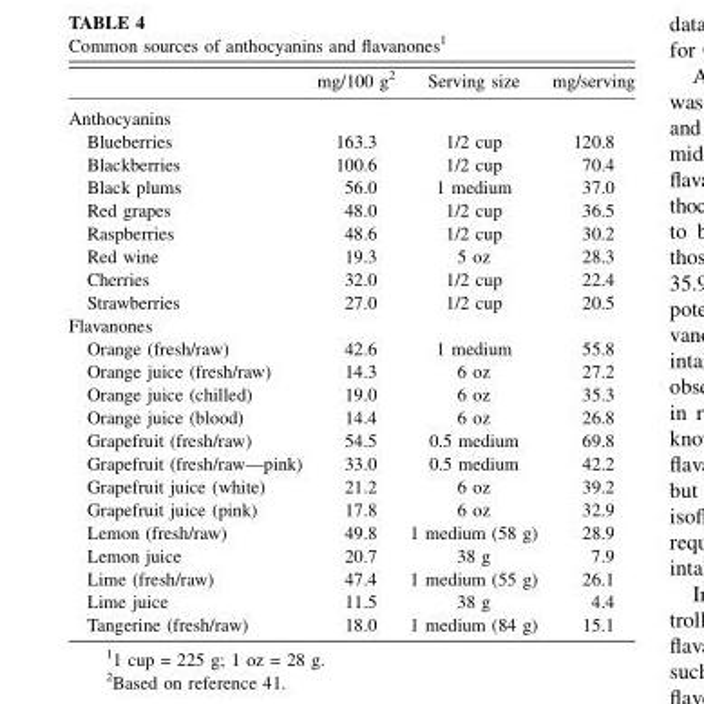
<table><thead><tr><td></td><td>mg/100 g<sup>2</sup></td><td>Serving size</td><td>mg/serving</td></tr></thead><tbody><tr><td colspan="4">Anthocyanins</td></tr><tr><td>Blueberries</td><td>163.3</td><td>1/2 cup</td><td>120.8</td></tr><tr><td>Blackberries</td><td>100.6</td><td>1/2 cup</td><td>70.4</td></tr><tr><td>Black plums</td><td>56.0</td><td>1 medium</td><td>37.0</td></tr><tr><td>Red grapes</td><td>48.0</td><td>1/2 cup</td><td>36.5</td></tr><tr><td>Raspberries</td><td>48.6</td><td>1/2 cup</td><td>30.2</td></tr><tr><td>Red wine</td><td>19.3</td><td>5 oz</td><td>28.3</td></tr><tr><td>Cherries</td><td>32.0</td><td>1/2 cup</td><td>22.4</td></tr><tr><td>Strawberries</td><td>27.0</td><td>1/2 cup</td><td>20.5</td></tr><tr><td colspan="4">Flavanones</td></tr><tr><td>Orange (fresh/raw)</td><td>42.6</td><td>1 medium</td><td>55.8</td></tr><tr><td>Orange juice (fresh/raw)</td><td>14.3</td><td>6 oz</td><td>27.2</td></tr><tr><td>Orange juice (chilled)</td><td>19.0</td><td>6 oz</td><td>35.3</td></tr><tr><td>Orange juice (blood)</td><td>14.4</td><td>6 oz</td><td>26.8</td></tr><tr><td>Grapefruit (fresh/raw)</td><td>54.5</td><td>0.5 medium</td><td>69.8</td></tr><tr><td>Grapefruit (fresh/raw—pink)</td><td>33.0</td><td>0.5 medium</td><td>42.2</td></tr><tr><td>Grapefruit juice (white)</td><td>21.2</td><td>6 oz</td><td>39.2</td></tr><tr><td>Grapefruit juice (pink)</td><td>17.8</td><td>6 oz</td><td>32.9</td></tr><tr><td>Lemon (fresh/raw)</td><td>49.8</td><td>1 medium (58 g)</td><td>28.9</td></tr><tr><td>Lemon juice</td><td>20.7</td><td>38 g</td><td>7.9</td></tr><tr><td>Lime (fresh/raw)</td><td>47.4</td><td>1 medium (55 g)</td><td>26.1</td></tr><tr><td>Lime juice</td><td>11.5</td><td>38 g</td><td>4.4</td></tr><tr><td>Tangerine (fresh/raw)</td><td>18.0</td><td>1 medium (84 g)</td><td>15.1</td></tr></tbody></table>